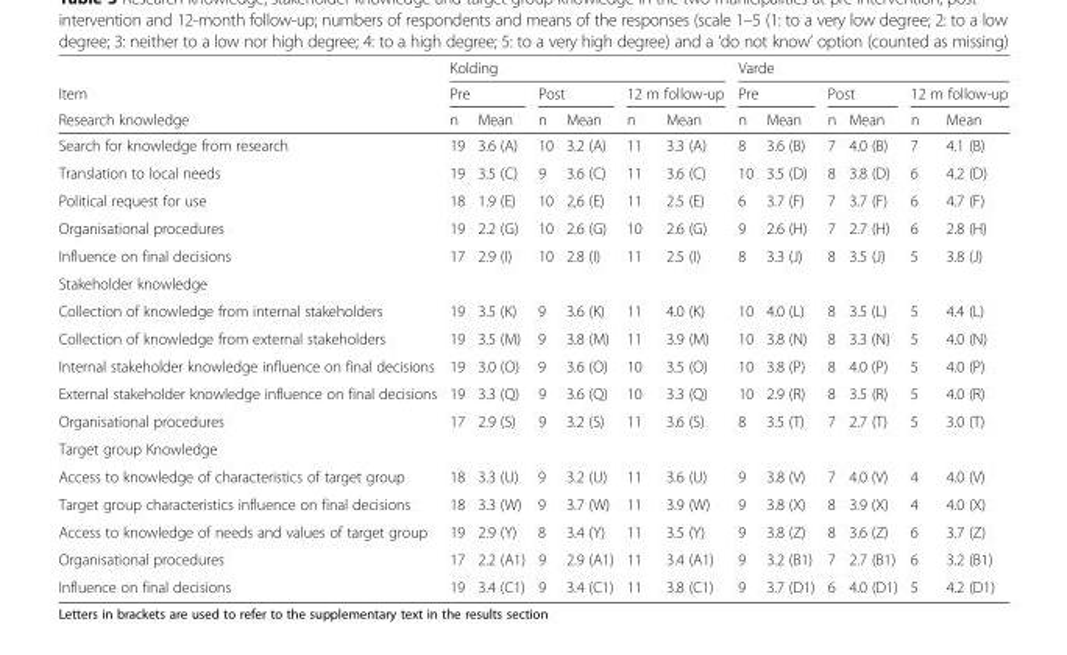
<table><thead><tr><td rowspan="3">Item Research knowledge</td><td colspan="6">Kolding</td><td colspan="6">Varde</td></tr><tr><td colspan="2">Pre</td><td colspan="2">Post</td><td colspan="2">12 m follow-up</td><td colspan="2">Pre</td><td colspan="2">Post</td><td colspan="2">12 m follow-up</td></tr><tr><td>n</td><td>Mean</td><td>n</td><td>Mean</td><td>n</td><td>Mean</td><td>n</td><td>Mean</td><td>n</td><td>Mean</td><td>n</td><td>Mean</td></tr></thead><tbody><tr><td>Search for knowledge from research</td><td>19</td><td>3.6 (A)</td><td>10</td><td>3.2 (A)</td><td>11</td><td>3.3 (A)</td><td>8</td><td>3.6 (B)</td><td>7</td><td>4.0 (B)</td><td>7</td><td>4.1 (B)</td></tr><tr><td>Translation to local needs</td><td>19</td><td>3.5 (C)</td><td>9</td><td>3.6 (C)</td><td>11</td><td>3.6 (C)</td><td>10</td><td>3.5 (D)</td><td>8</td><td>3.8 (D)</td><td>6</td><td>4.2 (D)</td></tr><tr><td>Political request for use</td><td>18</td><td>1.9 (E)</td><td>10</td><td>2,6 (E)</td><td>11</td><td>2.5 (E)</td><td>6</td><td>3.7 (F)</td><td>7</td><td>3.7 (F)</td><td>6</td><td>4.7 (F)</td></tr><tr><td>Organisational procedures</td><td>19</td><td>2.2 (G)</td><td>10</td><td>2.6 (G)</td><td>10</td><td>2.6 (G)</td><td>9</td><td>2.6 (H)</td><td>7</td><td>2.7 (H)</td><td>6</td><td>2.8 (H)</td></tr><tr><td>Influence on final decisions</td><td>17</td><td>2.9 (I)</td><td>10</td><td>2.8 (I)</td><td>11</td><td>2.5 (I)</td><td>8</td><td>3.3 (J)</td><td>8</td><td>3.5 (J)</td><td>5</td><td>3.8 (J)</td></tr><tr><td colspan="13">Stakeholder knowledge</td></tr><tr><td>Collection of knowledge from internal stakeholders</td><td>19</td><td>3.5 (K)</td><td>9</td><td>3.6 (K)</td><td>11</td><td>4.0 (K)</td><td>10</td><td>4.0 (L)</td><td>8</td><td>3.5 (L)</td><td>5</td><td>4.4 (L)</td></tr><tr><td>Collection of knowledge from external stakeholders</td><td>19</td><td>3.5 (M)</td><td>9</td><td>3.8 (M)</td><td>11</td><td>3.9 (M)</td><td>10</td><td>3.8 (N)</td><td>8</td><td>3.3 (N)</td><td>5</td><td>4.0 (N)</td></tr><tr><td>Internal stakeholder knowledge influence on final decisions</td><td>19</td><td>3.0 (O)</td><td>9</td><td>3.6 (O)</td><td>10</td><td>3.5 (O)</td><td>10</td><td>3.8 (P)</td><td>8</td><td>4.0 (P)</td><td>5</td><td>4.0 (P)</td></tr><tr><td>External stakeholder knowledge influence on final decisions</td><td>19</td><td>3.3 (Q)</td><td>9</td><td>3.6 (Q)</td><td>10</td><td>3.3 (Q)</td><td>10</td><td>2.9 (R)</td><td>8</td><td>3.5 (R)</td><td>5</td><td>4.0 (R)</td></tr><tr><td>Organisational procedures</td><td>17</td><td>2.9 (S)</td><td>9</td><td>3.2 (S)</td><td>11</td><td>3.6 (S)</td><td>8</td><td>3.5 (T)</td><td>7</td><td>2.7 (T)</td><td>5</td><td>3.0 (T)</td></tr><tr><td colspan="13">Target group Knowledge</td></tr><tr><td>Access to knowledge of characteristics of target group</td><td>18</td><td>3.3 (U)</td><td>9</td><td>3.2 (U)</td><td>11</td><td>3.6 (U)</td><td>9</td><td>3.8 (V)</td><td>7</td><td>4.0 (V)</td><td>4</td><td>4.0 (V)</td></tr><tr><td>Target group characteristics influence on final decisions</td><td>18</td><td>3.3 (W)</td><td>9</td><td>3.7 (W)</td><td>11</td><td>3.9 (W)</td><td>9</td><td>3.8 (X)</td><td>8</td><td>3.9 (X)</td><td>4</td><td>4.0 (X)</td></tr><tr><td>Access to knowledge of needs and values of target group</td><td>19</td><td>2.9 (Y)</td><td>8</td><td>3.4 (Y)</td><td>11</td><td>3.5 (Y)</td><td>9</td><td>3.8 (Z)</td><td>8</td><td>3.6 (Z)</td><td>6</td><td>3.7 (Z)</td></tr><tr><td>Organisational procedures</td><td>17</td><td>2.2 (A1)</td><td>9</td><td>2.9 (A1)</td><td>11</td><td>3.4 (A1)</td><td>9</td><td>3.2 (B1)</td><td>7</td><td>2.7 (B1)</td><td>6</td><td>3.2 (B1)</td></tr><tr><td>Influence on final decisions</td><td>19</td><td>3.4 (C1)</td><td>9</td><td>3.4 (C1)</td><td>11</td><td>3.8 (C1)</td><td>9</td><td>3.7 (D1)</td><td>6</td><td>4.0 (D1)</td><td>5</td><td>4.2 (D1)</td></tr></tbody></table>